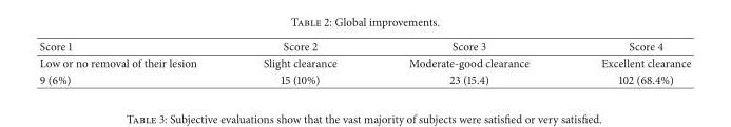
<table><thead><tr><td>Score 1</td><td>Score 2</td><td>Score 3</td><td>Score 4</td></tr></thead><tbody><tr><td>Low or no removal of their lesion</td><td>Slight clearance</td><td>Moderate-good clearance</td><td>Excellent clearance</td></tr><tr><td>9 (6%)</td><td>15 (10%)</td><td>23 (15.4)</td><td>102 (68.4%)</td></tr></tbody></table>